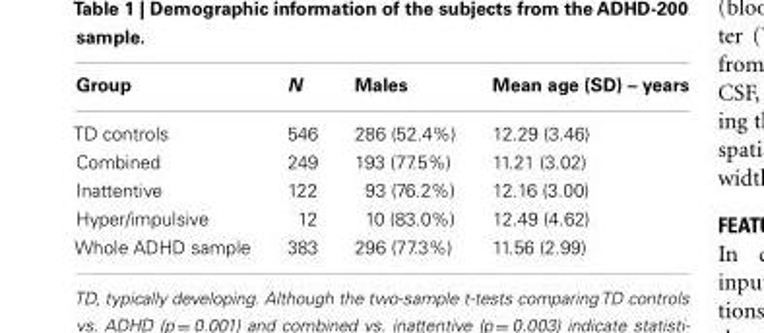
<table><thead><tr><td>Group</td><td>N</td><td>Males</td><td>Mean age (SD) – years</td></tr></thead><tbody><tr><td>TD controls</td><td>546</td><td>286 (52.4%)</td><td>12.29 (3.46)</td></tr><tr><td>Combined</td><td>249</td><td>193 (77.5%)</td><td>11.21 (3.02)</td></tr><tr><td>Inattentive</td><td>122</td><td>93 (76.2%)</td><td>12.16 (3.00)</td></tr><tr><td>Hyper/impulsive</td><td>12</td><td>10 (83.0%)</td><td>12.49 (4.62)</td></tr><tr><td>Whole ADHD sample</td><td>383</td><td>296 (77.3%)</td><td>11.56 (2.99)</td></tr></tbody></table>